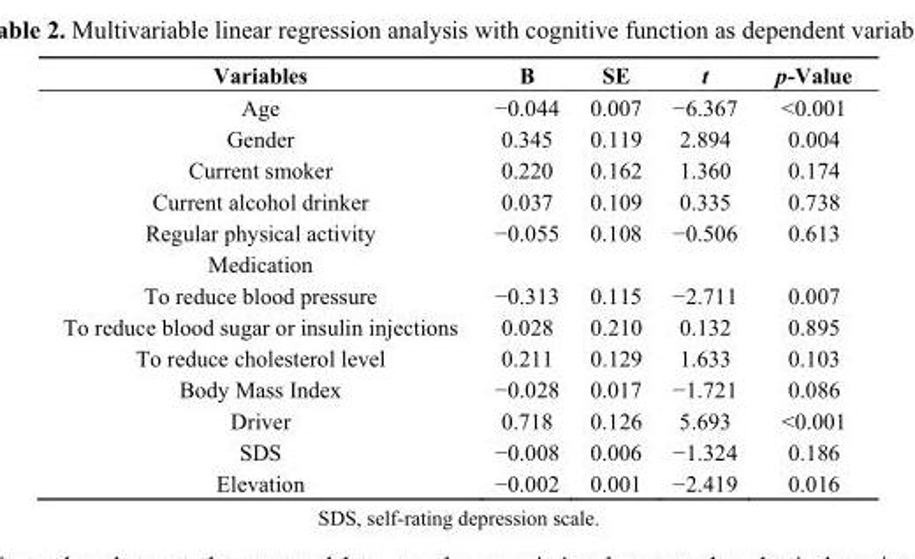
<table><thead><tr><td>Variables</td><td>B</td><td>SE</td><td>t</td><td>p-Value</td></tr></thead><tbody><tr><td>Age</td><td>−0.044</td><td>0.007</td><td>−6.367</td><td>&lt;0.001</td></tr><tr><td>Gender</td><td>0.345</td><td>0.119</td><td>2.894</td><td>0.004</td></tr><tr><td>Current smoker</td><td>0.220</td><td>0.162</td><td>1.360</td><td>0.174</td></tr><tr><td>Current alcohol drinker</td><td>0.037</td><td>0.109</td><td>0.335</td><td>0.738</td></tr><tr><td>Regular physical activity</td><td>−0.055</td><td>0.108</td><td>−0.506</td><td>0.613</td></tr><tr><td colspan="5">Medication</td></tr><tr><td>To reduce blood pressure</td><td>−0.313</td><td>0.115</td><td>−2.711</td><td>0.007</td></tr><tr><td>To reduce blood sugar or insulin injections</td><td>0.028</td><td>0.210</td><td>0.132</td><td>0.895</td></tr><tr><td>To reduce cholesterol level</td><td>0.211</td><td>0.129</td><td>1.633</td><td>0.103</td></tr><tr><td>Body Mass Index</td><td>−0.028</td><td>0.017</td><td>−1.721</td><td>0.086</td></tr><tr><td>Driver</td><td>0.718</td><td>0.126</td><td>5.693</td><td>&lt;0.001</td></tr><tr><td>SDS</td><td>−0.008</td><td>0.006</td><td>−1.324</td><td>0.186</td></tr><tr><td>Elevation</td><td>−0.002</td><td>0.001</td><td>−2.419</td><td>0.016</td></tr></tbody></table>